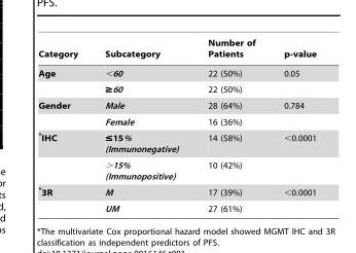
<table><thead><tr><td>Category</td><td>Subcategory</td><td>Number of Patients</td><td>p-value</td></tr></thead><tbody><tr><td rowspan="2">Age</td><td>&lt;60</td><td>22 (50%)</td><td>0.05</td></tr><tr><td>≥60</td><td>22 (50%)</td><td></td></tr><tr><td rowspan="2">Gender</td><td>Male</td><td>28 (64%)</td><td>0.784</td></tr><tr><td>Female</td><td>16 (36%)</td><td></td></tr><tr><td rowspan="2">*IHC</td><td>≤15% (Immunonegative)</td><td>14 (58%)</td><td>&lt;0.0001</td></tr><tr><td>&gt;15% (Immunopositive)</td><td>10 (42%)</td><td></td></tr><tr><td rowspan="2">*3R</td><td>M</td><td>17 (39%)</td><td>&lt;0.0001</td></tr><tr><td>UM</td><td>27 (61%)</td><td></td></tr></tbody></table>